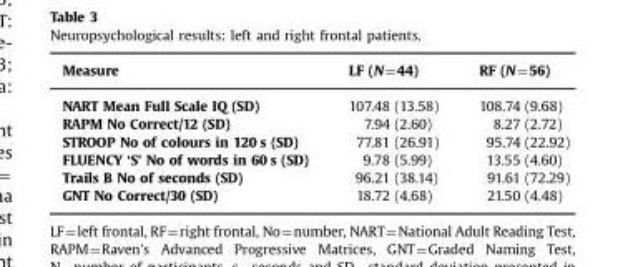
<table><thead><tr><td>Measure</td><td>LF (N=44)</td><td>RF (N=56)</td></tr></thead><tbody><tr><td>NART Mean Full Scale IQ (SD)</td><td>107.48 (13.58)</td><td>108.74 (9.68)</td></tr><tr><td>RAPM No Correct/12 (SD)</td><td>7.94 (2.60)</td><td>8.27 (2.72)</td></tr><tr><td>STROOP No of colours in 120 s (SD)</td><td>77.81 (26.91)</td><td>95.74 (22.92)</td></tr><tr><td>FLUENCY ‘S’ No of words in 60 s (SD)</td><td>9.78 (5.99)</td><td>13.55 (4.60)</td></tr><tr><td>Trails B No of seconds (SD)</td><td>96.21 (38.14)</td><td>91.61 (72.29)</td></tr><tr><td>GNT No Correct/30 (SD)</td><td>18.72 (4.68)</td><td>21.50 (4.48)</td></tr></tbody></table>